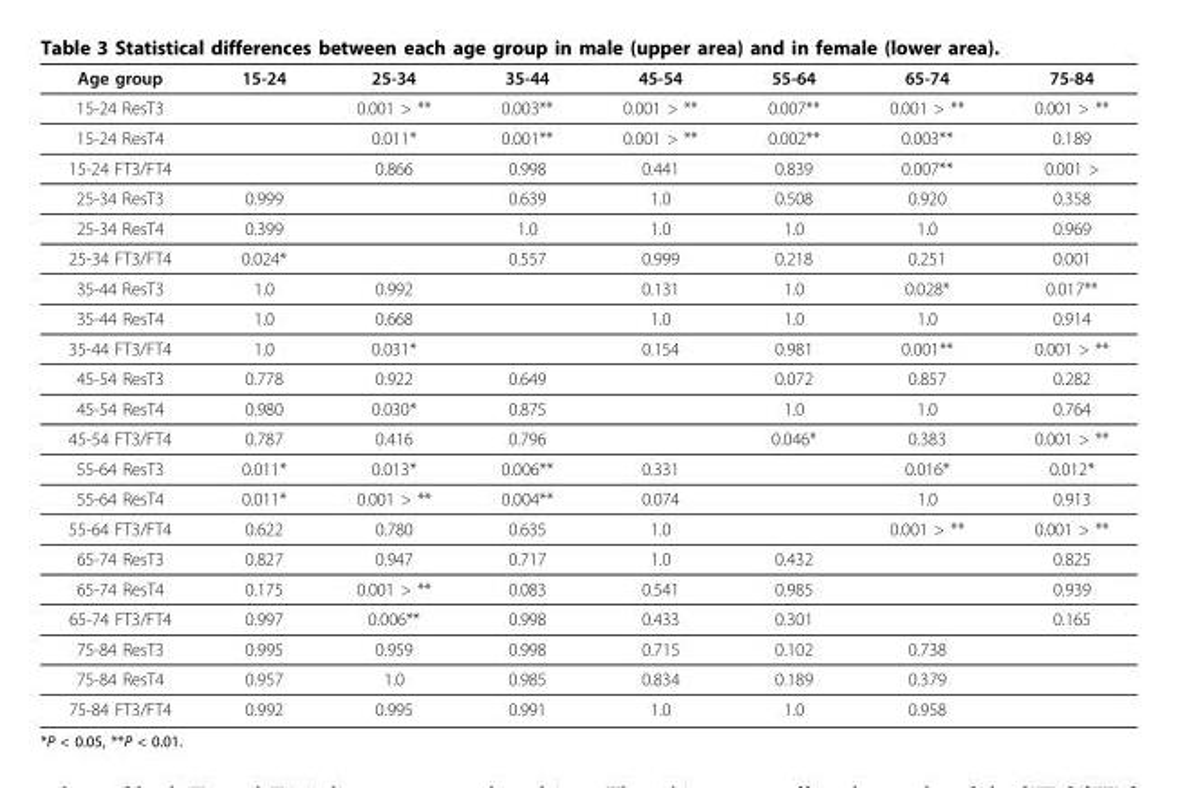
<table><thead><tr><td>Age group</td><td>15-24</td><td>25-34</td><td>35-44</td><td>45-54</td><td>55-64</td><td>65-74</td><td>75-84</td></tr></thead><tbody><tr><td>15-24 ResT3</td><td></td><td>0.001 &gt; **</td><td>0.003**</td><td>0.001 &gt; **</td><td>0.007**</td><td>0.001 &gt; **</td><td>0.001 &gt; **</td></tr><tr><td>15-24 ResT4</td><td></td><td>0.011*</td><td>0.001**</td><td>0.001 &gt; **</td><td>0.002**</td><td>0.003**</td><td>0.189</td></tr><tr><td>15-24 FT3/FT4</td><td></td><td>0.866</td><td>0.998</td><td>0.441</td><td>0.839</td><td>0.007**</td><td>0.001 &gt;</td></tr><tr><td>25-34 ResT3</td><td>0.999</td><td></td><td>0.639</td><td>1.0</td><td>0.508</td><td>0.920</td><td>0.358</td></tr><tr><td>25-34 ResT4</td><td>0.399</td><td></td><td>1.0</td><td>1.0</td><td>1.0</td><td>1.0</td><td>0.969</td></tr><tr><td>25-34 FT3/FT4</td><td>0.024*</td><td></td><td>0.557</td><td>0.999</td><td>0.218</td><td>0.251</td><td>0.001</td></tr><tr><td>35-44 ResT3</td><td>1.0</td><td>0.992</td><td></td><td>0.131</td><td>1.0</td><td>0.028*</td><td>0.017**</td></tr><tr><td>35-44 ResT4</td><td>1.0</td><td>0.668</td><td></td><td>1.0</td><td>1.0</td><td>1.0</td><td>0.914</td></tr><tr><td>35-44 FT3/FT4</td><td>1.0</td><td>0.031*</td><td></td><td>0.154</td><td>0.981</td><td>0.001**</td><td>0.001 &gt; **</td></tr><tr><td>45-54 ResT3</td><td>0.778</td><td>0.922</td><td>0.649</td><td></td><td>0.072</td><td>0.857</td><td>0.282</td></tr><tr><td>45-54 ResT4</td><td>0.980</td><td>0.030*</td><td>0.875</td><td></td><td>1.0</td><td>1.0</td><td>0.764</td></tr><tr><td>45-54 FT3/FT4</td><td>0.787</td><td>0.416</td><td>0.796</td><td></td><td>0.046*</td><td>0.383</td><td>0.001 &gt; **</td></tr><tr><td>55-64 ResT3</td><td>0.011*</td><td>0.013*</td><td>0.006**</td><td>0.331</td><td></td><td>0.016*</td><td>0.012*</td></tr><tr><td>55-64 ResT4</td><td>0.011*</td><td>0.001 &gt; **</td><td>0.004**</td><td>0.074</td><td></td><td>1.0</td><td>0.913</td></tr><tr><td>55-64 FT3/FT4</td><td>0.622</td><td>0.780</td><td>0.635</td><td>1.0</td><td></td><td>0.001 &gt; **</td><td>0.001 &gt; **</td></tr><tr><td>65-74 ResT3</td><td>0.827</td><td>0.947</td><td>0.717</td><td>1.0</td><td>0.432</td><td></td><td>0.825</td></tr><tr><td>65-74 ResT4</td><td>0.175</td><td>0.001 &gt; **</td><td>0.083</td><td>0.541</td><td>0.985</td><td></td><td>0.939</td></tr><tr><td>65-74 FT3/FT4</td><td>0.997</td><td>0.006**</td><td>0.998</td><td>0.433</td><td>0.301</td><td></td><td>0.165</td></tr><tr><td>75-84 ResT3</td><td>0.995</td><td>0.959</td><td>0.998</td><td>0.715</td><td>0.102</td><td>0.738</td><td></td></tr><tr><td>75-84 ResT4</td><td>0.957</td><td>1.0</td><td>0.985</td><td>0.834</td><td>0.189</td><td>0.379</td><td></td></tr><tr><td>75-84 FT3/FT4</td><td>0.992</td><td>0.995</td><td>0.991</td><td>1.0</td><td>1.0</td><td>0.958</td><td></td></tr></tbody></table>